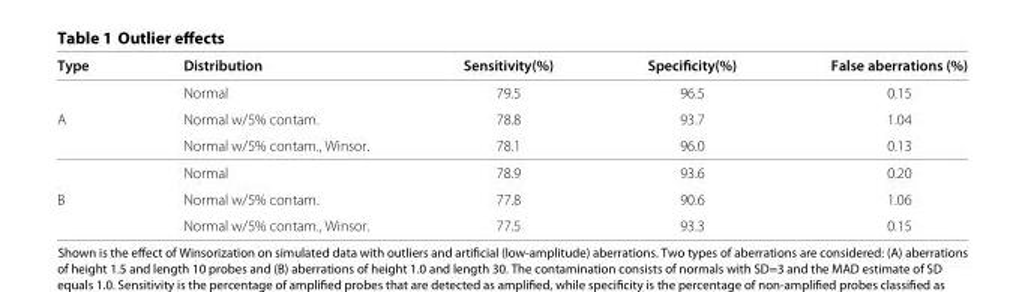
<table><thead><tr><td>Type</td><td>Distribution</td><td>Sensitivity(%)</td><td>Specificity(%)</td><td>False aberrations (%)</td></tr></thead><tbody><tr><td></td><td>Normal</td><td>79.5</td><td>96.5</td><td>0.15</td></tr><tr><td rowspan="3">A</td><td>Normal w/5% contam.</td><td>78.8</td><td>93.7</td><td>1.04</td></tr><tr><td>Normal w/5% contam., Winsor.</td><td>78.1</td><td>96.0</td><td>0.13</td></tr><tr><td>Normal</td><td>78.9</td><td>93.6</td><td>0.20</td></tr><tr><td rowspan="2">B</td><td>Normal w/5% contam.</td><td>77.8</td><td>90.6</td><td>1.06</td></tr><tr><td>Normal w/5% contam., Winsor.</td><td>77.5</td><td>93.3</td><td>0.15</td></tr></tbody></table>